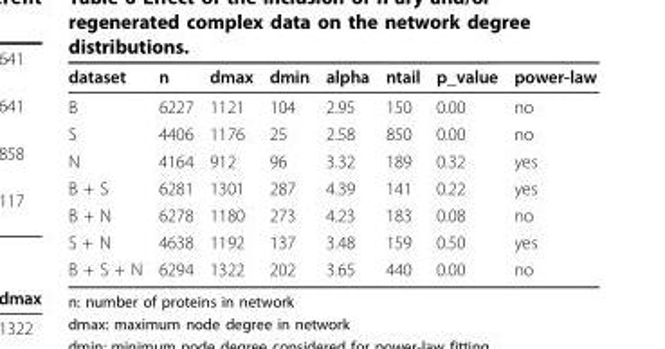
<table><thead><tr><td>dataset</td><td>n</td><td>dmax</td><td>dmin</td><td>alpha</td><td>ntail</td><td>p_value</td><td>power-law</td></tr></thead><tbody><tr><td>B</td><td>6227</td><td>1121</td><td>104</td><td>2.95</td><td>150</td><td>0.00</td><td>no</td></tr><tr><td>S</td><td>4406</td><td>1176</td><td>25</td><td>2.58</td><td>850</td><td>0.00</td><td>no</td></tr><tr><td>N</td><td>4164</td><td>912</td><td>96</td><td>3.32</td><td>189</td><td>0.32</td><td>yes</td></tr><tr><td>B + S</td><td>6281</td><td>1301</td><td>287</td><td>4.39</td><td>141</td><td>0.22</td><td>yes</td></tr><tr><td>B + N</td><td>6278</td><td>1180</td><td>273</td><td>4.23</td><td>183</td><td>0.08</td><td>no</td></tr><tr><td>S + N</td><td>4638</td><td>1192</td><td>137</td><td>3.48</td><td>159</td><td>0.50</td><td>yes</td></tr><tr><td>B + S + N</td><td>6294</td><td>1322</td><td>202</td><td>3.65</td><td>440</td><td>0.00</td><td>no</td></tr></tbody></table>